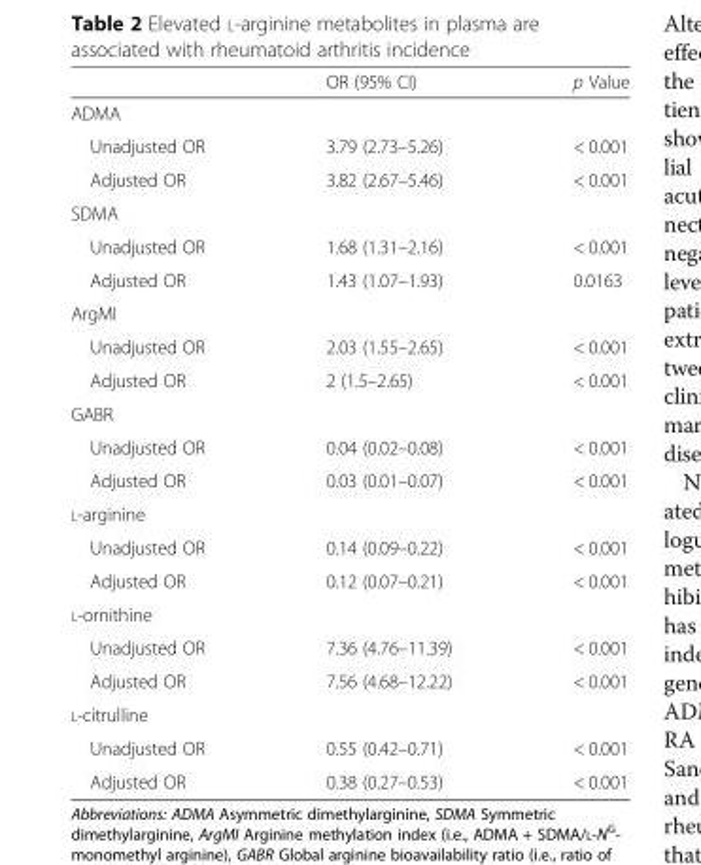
<table><thead><tr><td></td><td>OR (95% CI)</td><td>p Value</td></tr></thead><tbody><tr><td colspan="3">ADMA</td></tr><tr><td>Unadjusted OR</td><td>3.79 (2.73–5.26)</td><td>&lt; 0.001</td></tr><tr><td>Adjusted OR</td><td>3.82 (2.67–5.46)</td><td>&lt; 0.001</td></tr><tr><td colspan="3">SDMA</td></tr><tr><td>Unadjusted OR</td><td>1.68 (1.31–2.16)</td><td>&lt; 0.001</td></tr><tr><td>Adjusted OR</td><td>1.43 (1.07–1.93)</td><td>0.0163</td></tr><tr><td colspan="3">ArgMI</td></tr><tr><td>Unadjusted OR</td><td>2.03 (1.55–2.65)</td><td>&lt; 0.001</td></tr><tr><td>Adjusted OR</td><td>2 (1.5–2.65)</td><td>&lt; 0.001</td></tr><tr><td colspan="3">GABR</td></tr><tr><td>Unadjusted OR</td><td>0.04 (0.02–0.08)</td><td>&lt; 0.001</td></tr><tr><td>Adjusted OR</td><td>0.03 (0.01–0.07)</td><td>&lt; 0.001</td></tr><tr><td colspan="3">L-arginine</td></tr><tr><td>Unadjusted OR</td><td>0.14 (0.09–0.22)</td><td>&lt; 0.001</td></tr><tr><td>Adjusted OR</td><td>0.12 (0.07–0.21)</td><td>&lt; 0.001</td></tr><tr><td colspan="3">L-ornithine</td></tr><tr><td>Unadjusted OR</td><td>7.36 (4.76–11.39)</td><td>&lt; 0.001</td></tr><tr><td>Adjusted OR</td><td>7.56 (4.68–12.22)</td><td>&lt; 0.001</td></tr><tr><td colspan="3">L-citrulline</td></tr><tr><td>Unadjusted OR</td><td>0.55 (0.42–0.71)</td><td>&lt; 0.001</td></tr><tr><td>Adjusted OR</td><td>0.38 (0.27–0.53)</td><td>&lt; 0.001</td></tr></tbody></table>